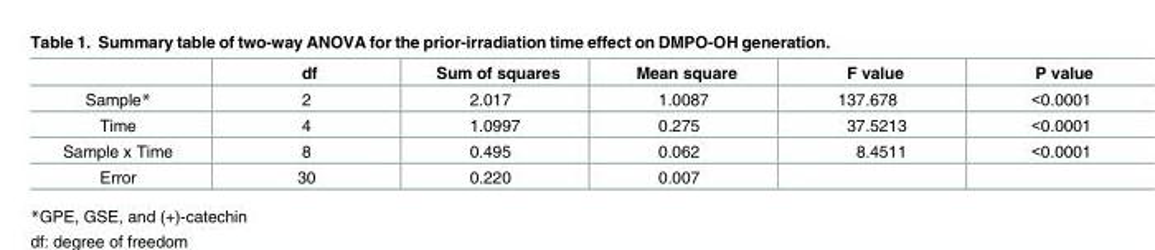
<table><thead><tr><td></td><td>df</td><td>Sum of squares</td><td>Mean square</td><td>F value</td><td>P value</td></tr></thead><tbody><tr><td>Sample*</td><td>2</td><td>2.017</td><td>1.0087</td><td>137.678</td><td>&lt;0.0001</td></tr><tr><td>Time</td><td>4</td><td>1.0997</td><td>0.275</td><td>37.5213</td><td>&lt;0.0001</td></tr><tr><td>Sample x Time</td><td>8</td><td>0.495</td><td>0.062</td><td>8.4511</td><td>&lt;0.0001</td></tr><tr><td>Error</td><td>30</td><td>0.220</td><td>0.007</td><td></td><td></td></tr></tbody></table>